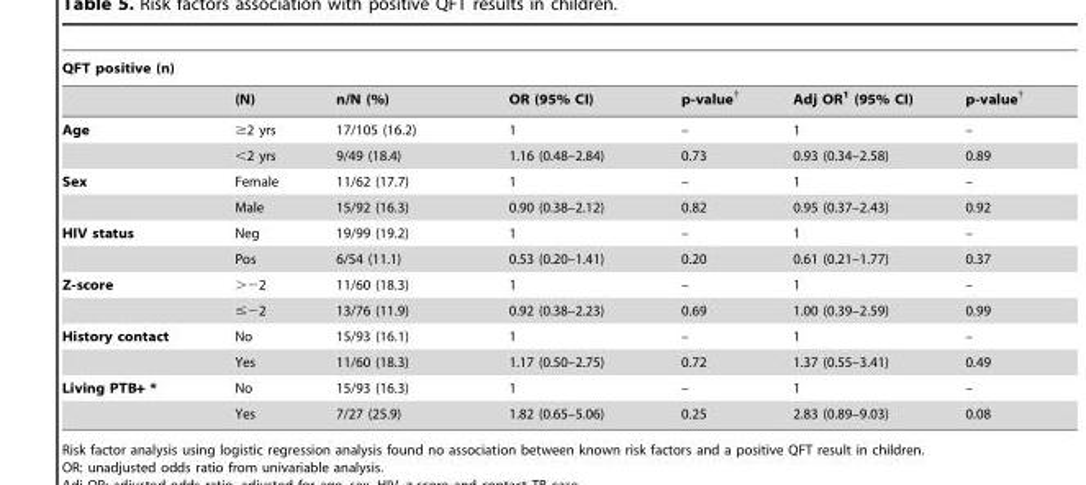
<table><thead><tr><td colspan="7">QFT positive (n)</td></tr><tr><td></td><td>(N)</td><td>n/N (%)</td><td>OR (95% CI)</td><td>p-value†</td><td>Adj OR<sup>1</sup> (95% CI)</td><td>p-value†</td></tr></thead><tbody><tr><td rowspan="2">Age</td><td>≥2 yrs</td><td>17/105 (16.2)</td><td>1</td><td>–</td><td>1</td><td>–</td></tr><tr><td>&lt;2 yrs</td><td>9/49 (18.4)</td><td>1.16 (0.48–2.84)</td><td>0.73</td><td>0.93 (0.34–2.58)</td><td>0.89</td></tr><tr><td rowspan="2">Sex</td><td>Female</td><td>11/62 (17.7)</td><td>1</td><td>–</td><td>1</td><td>–</td></tr><tr><td>Male</td><td>15/92 (16.3)</td><td>0.90 (0.38–2.12)</td><td>0.82</td><td>0.95 (0.37–2.43)</td><td>0.92</td></tr><tr><td rowspan="2">HIV status</td><td>Neg</td><td>19/99 (19.2)</td><td>1</td><td>–</td><td>1</td><td>–</td></tr><tr><td>Pos</td><td>6/54 (11.1)</td><td>0.53 (0.20–1.41)</td><td>0.20</td><td>0.61 (0.21–1.77)</td><td>0.37</td></tr><tr><td rowspan="2">Z-score</td><td>&gt;−2</td><td>11/60 (18.3)</td><td>1</td><td>–</td><td>1</td><td>–</td></tr><tr><td>≤−2</td><td>13/76 (11.9)</td><td>0.92 (0.38–2.23)</td><td>0.69</td><td>1.00 (0.39–2.59)</td><td>0.99</td></tr><tr><td rowspan="2">History contact</td><td>No</td><td>15/93 (16.1)</td><td>1</td><td>–</td><td>1</td><td>–</td></tr><tr><td>Yes</td><td>11/60 (18.3)</td><td>1.17 (0.50–2.75)</td><td>0.72</td><td>1.37 (0.55–3.41)</td><td>0.49</td></tr><tr><td rowspan="2">Living PTB+ *</td><td>No</td><td>15/93 (16.3)</td><td>1</td><td>–</td><td>1</td><td>–</td></tr><tr><td>Yes</td><td>7/27 (25.9)</td><td>1.82 (0.65–5.06)</td><td>0.25</td><td>2.83 (0.89–9.03)</td><td>0.08</td></tr></tbody></table>